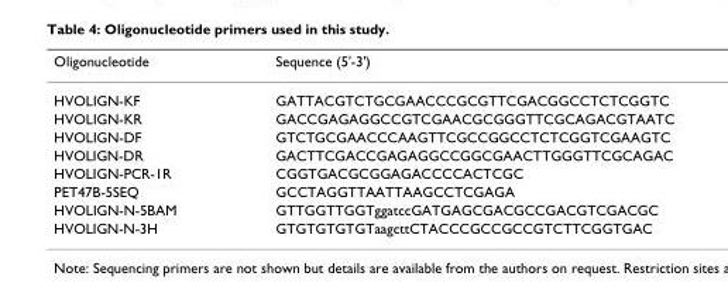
<table><thead><tr><td>Oligonucleotide</td><td>Sequence (5&#x27;-3&#x27;)</td></tr></thead><tbody><tr><td>HVOLIGN-KF</td><td>GATTACGTCTGCGAACCCGCGTTCGACGGCCTCTCGGTC</td></tr><tr><td>HVOLIGN-KR</td><td>GACCGAGAGGCCGTCGAACGCGGGTTCGCAGACGTAATC</td></tr><tr><td>HVOLIGN-DF</td><td>GTCTGCGAACCCAAGTTCGCCGGCCTCTCGGTCGAAGTC</td></tr><tr><td>HVOLIGN-DR</td><td>GACTTCGACCGAGAGGCCGGCGAACTTGGGTTCGCAGAC</td></tr><tr><td>HVOLIGN-PCR-1R</td><td>CGGTGACGCGGAGACCCCACTCGC</td></tr><tr><td>PET47B-5SEQ</td><td>GCCTAGGTTAATTAAGCCTCGAGA</td></tr><tr><td>HVOLIGN-N-5BAM</td><td>GTTGGTTGGTggatccGATGAGCGACGCCGACGTCGACGC</td></tr><tr><td>HVOLIGN-N-3H</td><td>GTGTGTGTGTaagcttCTACCCGCCGCCGTCTTCGGTGAC</td></tr></tbody></table>